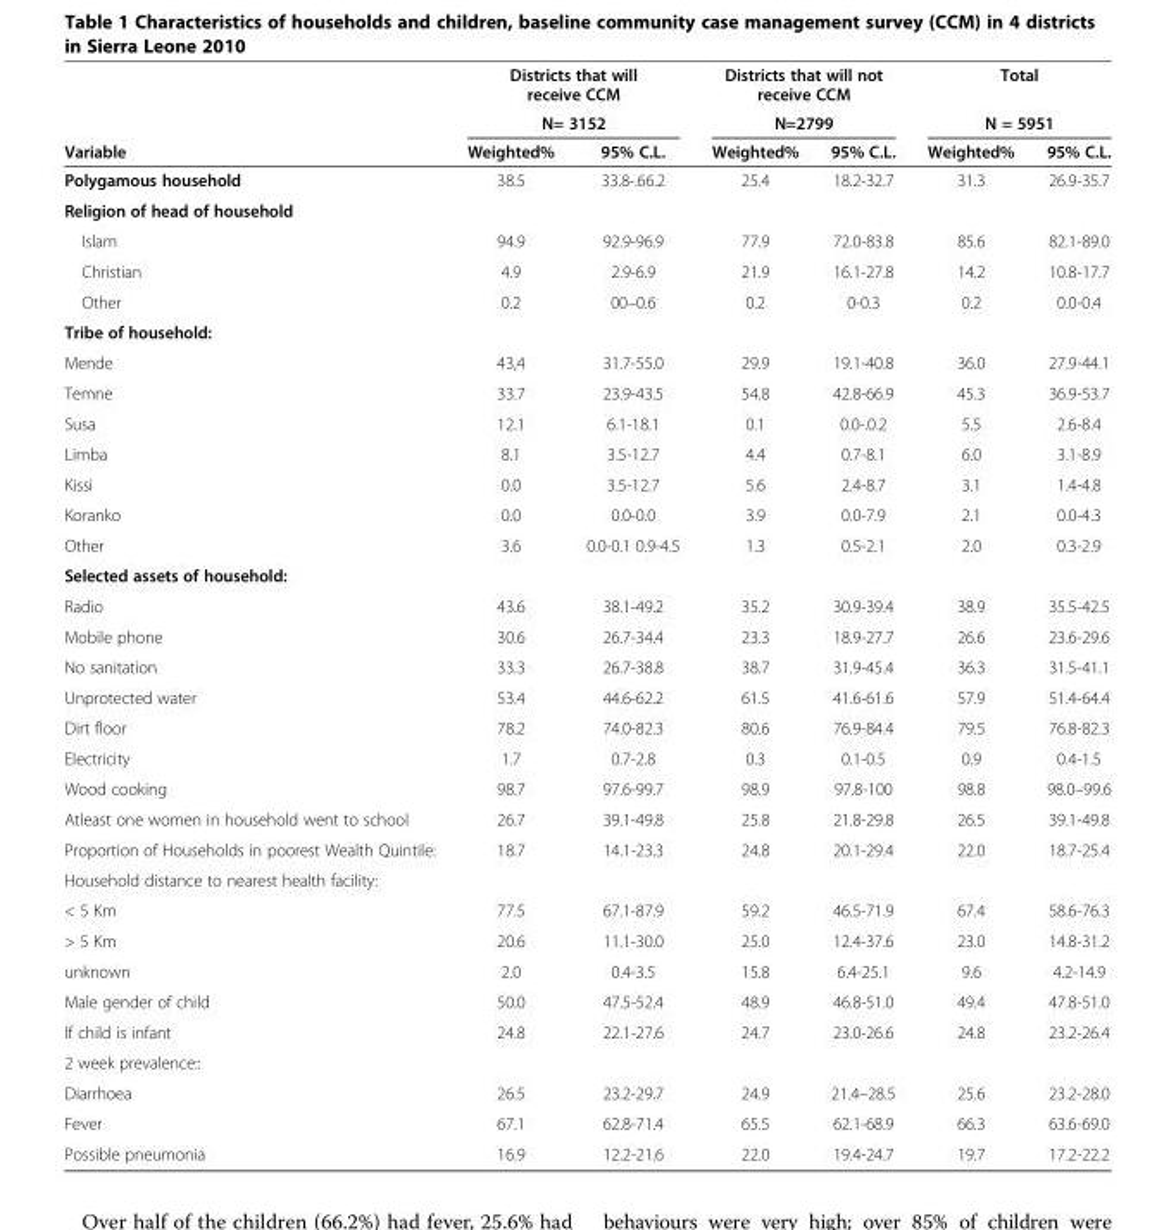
<table><thead><tr><td rowspan="3">Variable</td><td rowspan="2" colspan="2">Districts that will receive CCM N= 3152</td><td rowspan="2" colspan="2">Districts that will not receive CCM N=2799</td><td rowspan="2" colspan="2">Total N = 5951</td></tr><tr></tr><tr><td>Weighted%</td><td>95% C.L.</td><td>Weighted%</td><td>95% C.L.</td><td>Weighted%</td><td>95% C.L.</td></tr></thead><tbody><tr><td>Polygamous household</td><td>38.5</td><td>33.8-.66.2</td><td>25.4</td><td>18.2-32.7</td><td>31.3</td><td>26.9-35.7</td></tr><tr><td colspan="7">Religion of head of household</td></tr><tr><td>Islam</td><td>94.9</td><td>92.9-96.9</td><td>77.9</td><td>72.0-83.8</td><td>85.6</td><td>82.1-89.0</td></tr><tr><td>Christian</td><td>4.9</td><td>2.9-6.9</td><td>21.9</td><td>16.1-27.8</td><td>14.2</td><td>10.8-17.7</td></tr><tr><td>Other</td><td>0.2</td><td>00–0.6</td><td>0.2</td><td>0-0.3</td><td>0.2</td><td>0.0-0.4</td></tr><tr><td colspan="7">Tribe of household:</td></tr><tr><td>Mende</td><td>43,4</td><td>31.7-55.0</td><td>29.9</td><td>19.1-40.8</td><td>36.0</td><td>27.9-44.1</td></tr><tr><td>Temne</td><td>33.7</td><td>23.9-43.5</td><td>54.8</td><td>42.8-66.9</td><td>45.3</td><td>36.9-53.7</td></tr><tr><td>Susa</td><td>12.1</td><td>6.1-18.1</td><td>0.1</td><td>0.0-.0.2</td><td>5.5</td><td>2.6-8.4</td></tr><tr><td>Limba</td><td>8.1</td><td>3.5-12.7</td><td>4.4</td><td>0.7-8.1</td><td>6.0</td><td>3.1-8.9</td></tr><tr><td>Kissi</td><td>0.0</td><td>3.5-12.7</td><td>5.6</td><td>2.4-8.7</td><td>3.1</td><td>1.4-4.8</td></tr><tr><td>Koranko</td><td>0.0</td><td>0.0-0.0</td><td>3.9</td><td>0.0-7.9</td><td>2.1</td><td>0.0-4.3</td></tr><tr><td>Other</td><td>3.6</td><td>0.0-0.1 0.9-4.5</td><td>1.3</td><td>0.5-2.1</td><td>2.0</td><td>0.3-2.9</td></tr><tr><td colspan="7">Selected assets of household:</td></tr><tr><td>Radio</td><td>43.6</td><td>38.1-49.2</td><td>35.2</td><td>30.9-39.4</td><td>38.9</td><td>35.5-42.5</td></tr><tr><td>Mobile phone</td><td>30.6</td><td>26.7-34.4</td><td>23.3</td><td>18.9-27.7</td><td>26.6</td><td>23.6-29.6</td></tr><tr><td>No sanitation</td><td>33.3</td><td>26.7-38.8</td><td>38.7</td><td>31.9-45.4</td><td>36.3</td><td>31.5-41.1</td></tr><tr><td>Unprotected water</td><td>53.4</td><td>44.6-62.2</td><td>61.5</td><td>41.6-61.6</td><td>57.9</td><td>51.4-64.4</td></tr><tr><td>Dirt floor</td><td>78.2</td><td>74.0-82.3</td><td>80.6</td><td>76.9-84.4</td><td>79.5</td><td>76.8-82.3</td></tr><tr><td>Electricity</td><td>1.7</td><td>0.7-2.8</td><td>0.3</td><td>0.1-0.5</td><td>0.9</td><td>0.4-1.5</td></tr><tr><td>Wood cooking</td><td>98.7</td><td>97.6-99.7</td><td>98.9</td><td>97.8-100</td><td>98.8</td><td>98.0–99.6</td></tr><tr><td>Atleast one women in household went to school</td><td>26.7</td><td>39.1-49.8</td><td>25.8</td><td>21.8-29.8</td><td>26.5</td><td>39.1-49.8</td></tr><tr><td>Proportion of Households in poorest Wealth Quintile:</td><td>18.7</td><td>14.1-23.3</td><td>24.8</td><td>20.1-29.4</td><td>22.0</td><td>18.7-25.4</td></tr><tr><td colspan="7">Household distance to nearest health facility:</td></tr><tr><td>&lt; 5 Km</td><td>77.5</td><td>67.1-87.9</td><td>59.2</td><td>46.5-71.9</td><td>67.4</td><td>58.6-76.3</td></tr><tr><td>&gt; 5 Km</td><td>20.6</td><td>11.1-30.0</td><td>25.0</td><td>12.4-37.6</td><td>23.0</td><td>14.8-31.2</td></tr><tr><td>unknown</td><td>2.0</td><td>0.4-3.5</td><td>15.8</td><td>6.4-25.1</td><td>9.6</td><td>4.2-14.9</td></tr><tr><td>Male gender of child</td><td>50.0</td><td>47.5-52.4</td><td>48.9</td><td>46.8-51.0</td><td>49.4</td><td>47.8-51.0</td></tr><tr><td>If child is infant</td><td>24.8</td><td>22.1-27.6</td><td>24.7</td><td>23.0-26.6</td><td>24.8</td><td>23.2-26.4</td></tr><tr><td colspan="7">2 week prevalence::</td></tr><tr><td>Diarrhoea</td><td>26.5</td><td>23.2-29.7</td><td>24.9</td><td>21.4–28.5</td><td>25.6</td><td>23.2-28.0</td></tr><tr><td>Fever</td><td>67.1</td><td>62.8-71.4</td><td>65.5</td><td>62.1-68.9</td><td>66.3</td><td>63.6-69.0</td></tr><tr><td>Possible pneumonia</td><td>16.9</td><td>12.2-21.6</td><td>22.0</td><td>19.4-24.7</td><td>19.7</td><td>17.2-22.2</td></tr></tbody></table>